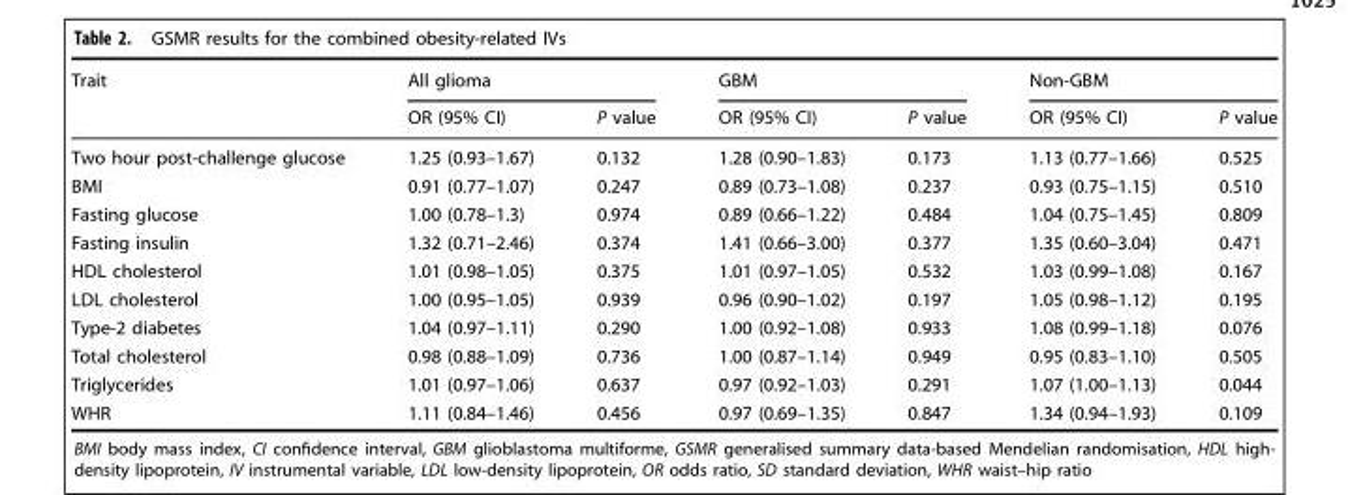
<table><thead><tr><td rowspan="2">Trait</td><td colspan="2">All glioma</td><td colspan="2">GBM</td><td colspan="2">Non-GBM</td></tr><tr><td>OR (95% CI)</td><td>P value</td><td>OR (95% CI)</td><td>P value</td><td>OR (95% CI)</td><td>P value</td></tr></thead><tbody><tr><td>Two hour post-challenge glucose</td><td>1.25 (0.93–1.67)</td><td>0.132</td><td>1.28 (0.90–1.83)</td><td>0.173</td><td>1.13 (0.77–1.66)</td><td>0.525</td></tr><tr><td>BMI</td><td>0.91 (0.77–1.07)</td><td>0.247</td><td>0.89 (0.73–1.08)</td><td>0.237</td><td>0.93 (0.75–1.15)</td><td>0.510</td></tr><tr><td>Fasting glucose</td><td>1.00 (0.78–1.3)</td><td>0.974</td><td>0.89 (0.66–1.22)</td><td>0.484</td><td>1.04 (0.75–1.45)</td><td>0.809</td></tr><tr><td>Fasting insulin</td><td>1.32 (0.71–2.46)</td><td>0.374</td><td>1.41 (0.66–3.00)</td><td>0.377</td><td>1.35 (0.60–3.04)</td><td>0.471</td></tr><tr><td>HDL cholesterol</td><td>1.01 (0.98–1.05)</td><td>0.375</td><td>1.01 (0.97–1.05)</td><td>0.532</td><td>1.03 (0.99–1.08)</td><td>0.167</td></tr><tr><td>LDL cholesterol</td><td>1.00 (0.95–1.05)</td><td>0.939</td><td>0.96 (0.90–1.02)</td><td>0.197</td><td>1.05 (0.98–1.12)</td><td>0.195</td></tr><tr><td>Type-2 diabetes</td><td>1.04 (0.97–1.11)</td><td>0.290</td><td>1.00 (0.92–1.08)</td><td>0.933</td><td>1.08 (0.99–1.18)</td><td>0.076</td></tr><tr><td>Total cholesterol</td><td>0.98 (0.88–1.09)</td><td>0.736</td><td>1.00 (0.87–1.14)</td><td>0.949</td><td>0.95 (0.83–1.10)</td><td>0.505</td></tr><tr><td>Triglycerides</td><td>1.01 (0.97–1.06)</td><td>0.637</td><td>0.97 (0.92–1.03)</td><td>0.291</td><td>1.07 (1.00–1.13)</td><td>0.044</td></tr><tr><td>WHR</td><td>1.11 (0.84–1.46)</td><td>0.456</td><td>0.97 (0.69–1.35)</td><td>0.847</td><td>1.34 (0.94–1.93)</td><td>0.109</td></tr></tbody></table>